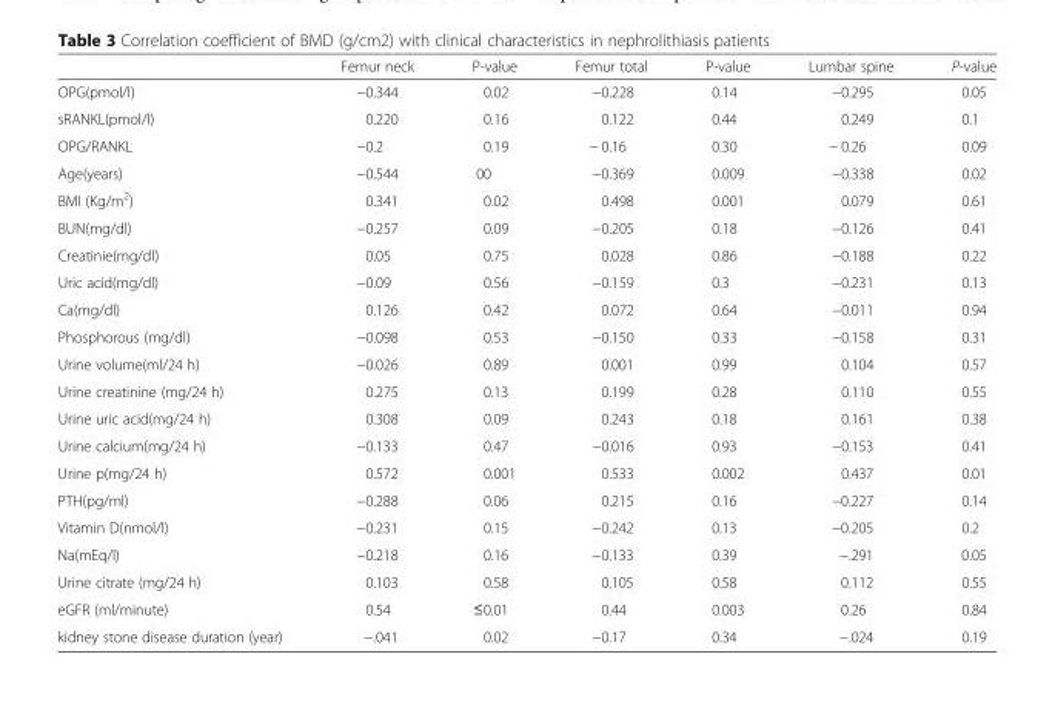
<table><thead><tr><td></td><td>Femur neck</td><td>P-value</td><td>Femur total</td><td>P-value</td><td>Lumbar spine</td><td>P-value</td></tr></thead><tbody><tr><td>OPG(pmol/l)</td><td>−0.344</td><td>0.02</td><td>−0.228</td><td>0.14</td><td>−0.295</td><td>0.05</td></tr><tr><td>sRANKL(pmol/l)</td><td>0.220</td><td>0.16</td><td>0.122</td><td>0.44</td><td>0.249</td><td>0.1</td></tr><tr><td>OPG/RANKL</td><td>−0.2</td><td>0.19</td><td>− 0.16</td><td>0.30</td><td>− 0.26</td><td>0.09</td></tr><tr><td>Age(years)</td><td>−0.544</td><td>00</td><td>−0.369</td><td>0.009</td><td>−0.338</td><td>0.02</td></tr><tr><td>BMI (Kg/m<sup>2</sup>)</td><td>0.341</td><td>0.02</td><td>0.498</td><td>0.001</td><td>0.079</td><td>0.61</td></tr><tr><td>BUN(mg/dl)</td><td>−0.257</td><td>0.09</td><td>−0.205</td><td>0.18</td><td>−0.126</td><td>0.41</td></tr><tr><td>Creatinie(mg/dl)</td><td>0.05</td><td>0.75</td><td>0.028</td><td>0.86</td><td>−0.188</td><td>0.22</td></tr><tr><td>Uric acid(mg/dl)</td><td>−0.09</td><td>0.56</td><td>−0.159</td><td>0.3</td><td>−0.231</td><td>0.13</td></tr><tr><td>Ca(mg/dl)</td><td>0.126</td><td>0.42</td><td>0.072</td><td>0.64</td><td>−0.011</td><td>0.94</td></tr><tr><td>Phosphorous (mg/dl)</td><td>−0.098</td><td>0.53</td><td>−0.150</td><td>0.33</td><td>−0.158</td><td>0.31</td></tr><tr><td>Urine volume(ml/24 h)</td><td>−0.026</td><td>0.89</td><td>0.001</td><td>0.99</td><td>0.104</td><td>0.57</td></tr><tr><td>Urine creatinine (mg/24 h)</td><td>0.275</td><td>0.13</td><td>0.199</td><td>0.28</td><td>0.110</td><td>0.55</td></tr><tr><td>Urine uric acid(mg/24 h)</td><td>0.308</td><td>0.09</td><td>0.243</td><td>0.18</td><td>0.161</td><td>0.38</td></tr><tr><td>Urine calcium(mg/24 h)</td><td>−0.133</td><td>0.47</td><td>−0.016</td><td>0.93</td><td>−0.153</td><td>0.41</td></tr><tr><td>Urine p(mg/24 h)</td><td>0.572</td><td>0.001</td><td>0.533</td><td>0.002</td><td>0.437</td><td>0.01</td></tr><tr><td>PTH(pg/ml)</td><td>−0.288</td><td>0.06</td><td>0.215</td><td>0.16</td><td>−0.227</td><td>0.14</td></tr><tr><td>Vitamin D(nmol/l)</td><td>−0.231</td><td>0.15</td><td>−0.242</td><td>0.13</td><td>−0.205</td><td>0.2</td></tr><tr><td>Na(mEq/l)</td><td>−0.218</td><td>0.16</td><td>−0.133</td><td>0.39</td><td>−.291</td><td>0.05</td></tr><tr><td>Urine citrate (mg/24 h)</td><td>0.103</td><td>0.58</td><td>0.105</td><td>0.58</td><td>0.112</td><td>0.55</td></tr><tr><td>eGFR (ml/minute)</td><td>0.54</td><td>≤0.01</td><td>0.44</td><td>0.003</td><td>0.26</td><td>0.84</td></tr><tr><td>kidney stone disease duration (year)</td><td>−.041</td><td>0.02</td><td>−0.17</td><td>0.34</td><td>−.024</td><td>0.19</td></tr></tbody></table>